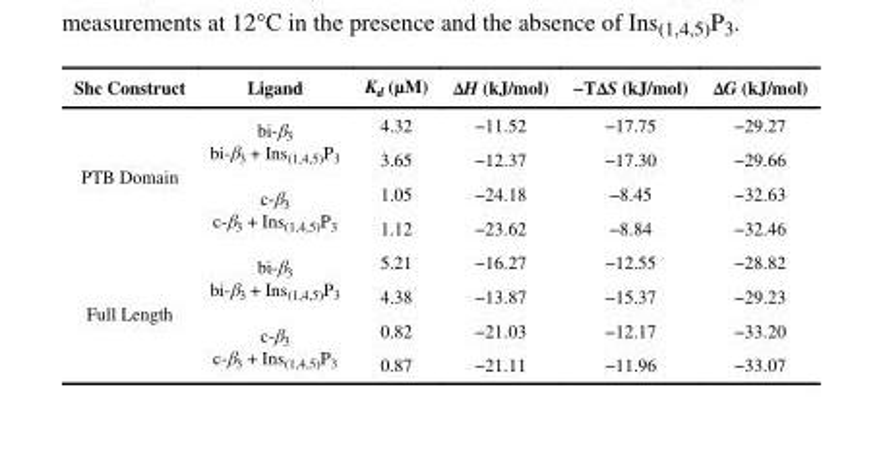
<table><thead><tr><td>Shc Construct</td><td>Ligand</td><td>K<sub>d</sub> (μM)</td><td>ΔH (kJ/mol)</td><td>−TΔS (kJ/mol)</td><td>ΔG (kJ/mol)</td></tr></thead><tbody><tr><td rowspan="4">PTB Domain</td><td rowspan="2">bi-β<sub>3</sub> bi-β<sub>3</sub> + Ins<sub>(1,4,5)</sub>P<sub>3</sub></td><td>4.32</td><td>−11.52</td><td>−17.75</td><td>−29.27</td></tr><tr><td>3.65</td><td>−12.37</td><td>−17.30</td><td>−29.66</td></tr><tr><td rowspan="2">c-β<sub>3</sub> c-β<sub>3</sub> + Ins<sub>(1,4,5)</sub>P<sub>3</sub></td><td>1.05</td><td>−24.18</td><td>−8.45</td><td>−32.63</td></tr><tr><td>1.12</td><td>−23.62</td><td>−8.84</td><td>−32.46</td></tr><tr><td rowspan="4">Full Length</td><td rowspan="2">bi-β<sub>3</sub> bi-β<sub>3</sub> + Ins<sub>(1,4,5)</sub>P<sub>3</sub></td><td>5.21</td><td>−16.27</td><td>−12.55</td><td>−28.82</td></tr><tr><td>4.38</td><td>−13.87</td><td>−15.37</td><td>−29.23</td></tr><tr><td rowspan="2">c-β<sub>3</sub> c-β<sub>3</sub> + Ins<sub>(1,4,5)</sub>P<sub>3</sub></td><td>0.82</td><td>−21.03</td><td>−12.17</td><td>−33.20</td></tr><tr><td>0.87</td><td>−21.11</td><td>−11.96</td><td>−33.07</td></tr></tbody></table>